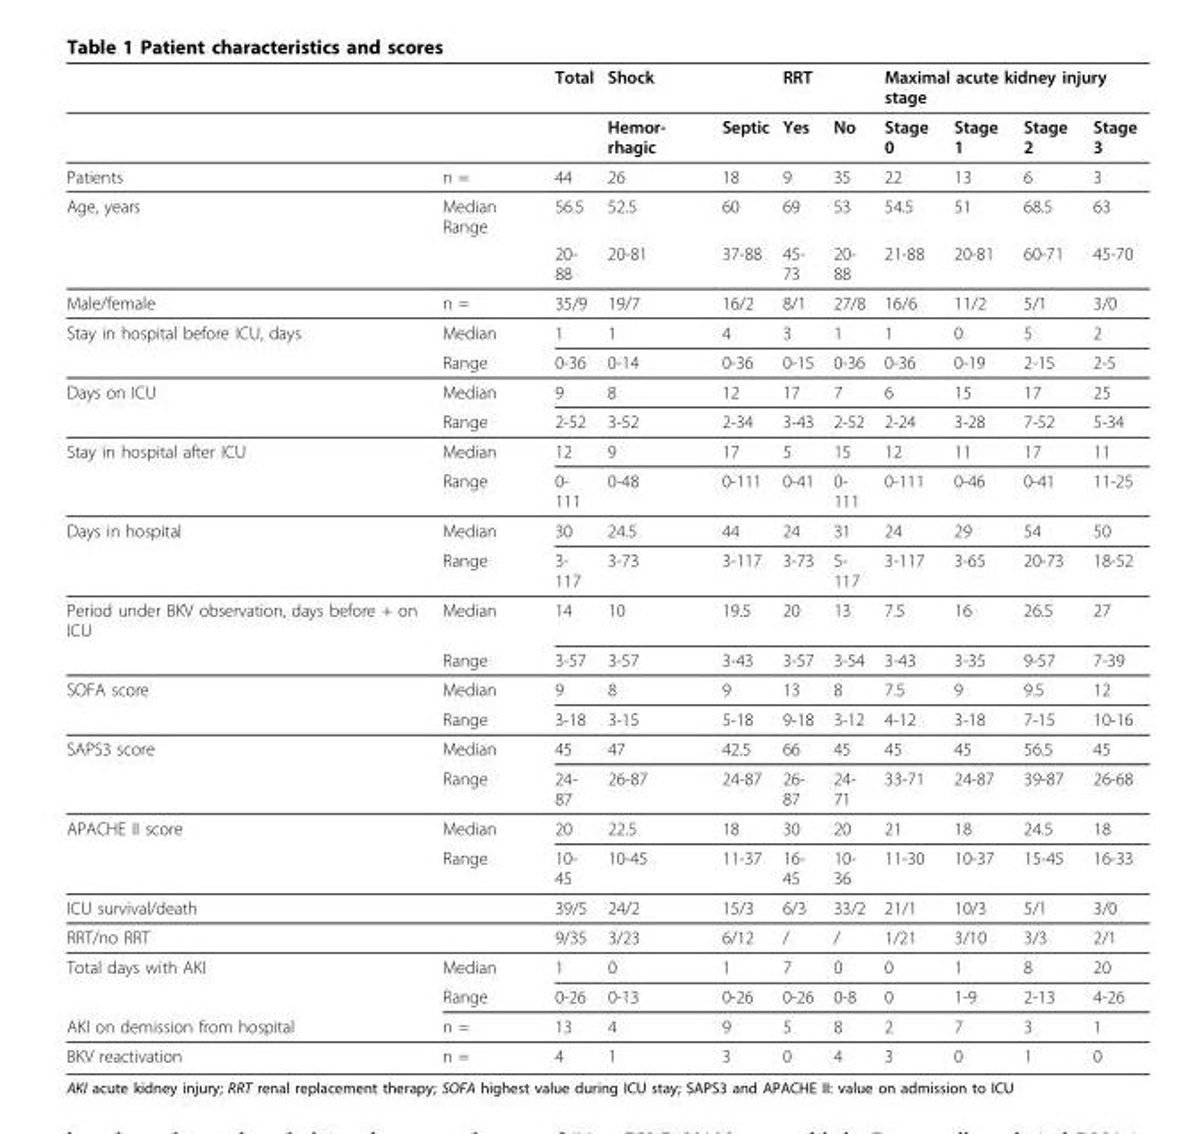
<table><thead><tr><td rowspan="2"></td><td rowspan="2"></td><td rowspan="2">Total</td><td colspan="2">Shock</td><td colspan="2">RRT</td><td colspan="4">Maximal acute kidney injury stage</td></tr><tr><td>Hemor- rhagic</td><td>Septic</td><td>Yes</td><td>No</td><td>Stage 0</td><td>Stage 1</td><td>Stage 2</td><td>Stage 3</td></tr></thead><tbody><tr><td>Patients</td><td>n =</td><td>44</td><td>26</td><td>18</td><td>9</td><td>35</td><td>22</td><td>13</td><td>6</td><td>3</td></tr><tr><td rowspan="2">Age, years</td><td>Median Range</td><td>56.5</td><td>52.5</td><td>60</td><td>69</td><td>53</td><td>54.5</td><td>51</td><td>68.5</td><td>63</td></tr><tr><td></td><td>20- 88</td><td>20-81</td><td>37-88</td><td>45- 73</td><td>20- 88</td><td>21-88</td><td>20-81</td><td>60-71</td><td>45-70</td></tr><tr><td>Male/female</td><td>n =</td><td>35/9</td><td>19/7</td><td>16/2</td><td>8/1</td><td>27/8</td><td>16/6</td><td>11/2</td><td>5/1</td><td>3/0</td></tr><tr><td rowspan="2">Stay in hospital before ICU, days</td><td>Median</td><td>1</td><td>1</td><td>4</td><td>3</td><td>1</td><td>1</td><td>0</td><td>5</td><td>2</td></tr><tr><td>Range</td><td>0-36</td><td>0-14</td><td>0-36</td><td>0-15</td><td>0-36</td><td>0-36</td><td>0-19</td><td>2-15</td><td>2-5</td></tr><tr><td rowspan="2">Days on ICU</td><td>Median</td><td>9</td><td>8</td><td>12</td><td>17</td><td>7</td><td>6</td><td>15</td><td>17</td><td>25</td></tr><tr><td>Range</td><td>2-52</td><td>3-52</td><td>2-34</td><td>3-43</td><td>2-52</td><td>2-24</td><td>3-28</td><td>7-52</td><td>5-34</td></tr><tr><td rowspan="2">Stay in hospital after ICU</td><td>Median</td><td>12</td><td>9</td><td>17</td><td>5</td><td>15</td><td>12</td><td>11</td><td>17</td><td>11</td></tr><tr><td>Range</td><td>0- 111</td><td>0-48</td><td>0-111</td><td>0-41</td><td>0- 111</td><td>0-111</td><td>0-46</td><td>0-41</td><td>11-25</td></tr><tr><td rowspan="2">Days in hospital</td><td>Median</td><td>30</td><td>24.5</td><td>44</td><td>24</td><td>31</td><td>24</td><td>29</td><td>54</td><td>50</td></tr><tr><td>Range</td><td>3- 117</td><td>3-73</td><td>3-117</td><td>3-73</td><td>5- 117</td><td>3-117</td><td>3-65</td><td>20-73</td><td>18-52</td></tr><tr><td rowspan="2">Period under BKV observation, days before + on ICU</td><td>Median</td><td>14</td><td>10</td><td>19.5</td><td>20</td><td>13</td><td>7.5</td><td>16</td><td>26.5</td><td>27</td></tr><tr><td>Range</td><td>3-57</td><td>3-57</td><td>3-43</td><td>3-57</td><td>3-54</td><td>3-43</td><td>3-35</td><td>9-57</td><td>7-39</td></tr><tr><td rowspan="2">SOFA score</td><td>Median</td><td>9</td><td>8</td><td>9</td><td>13</td><td>8</td><td>7.5</td><td>9</td><td>9.5</td><td>12</td></tr><tr><td>Range</td><td>3-18</td><td>3-15</td><td>5-18</td><td>9-18</td><td>3-12</td><td>4-12</td><td>3-18</td><td>7-15</td><td>10-16</td></tr><tr><td rowspan="2">SAPS3 score</td><td>Median</td><td>45</td><td>47</td><td>42.5</td><td>66</td><td>45</td><td>45</td><td>45</td><td>56.5</td><td>45</td></tr><tr><td>Range</td><td>24- 87</td><td>26-87</td><td>24-87</td><td>26- 87</td><td>24- 71</td><td>33-71</td><td>24-87</td><td>39-87</td><td>26-68</td></tr><tr><td rowspan="2">APACHE II score</td><td>Median</td><td>20</td><td>22.5</td><td>18</td><td>30</td><td>20</td><td>21</td><td>18</td><td>24.5</td><td>18</td></tr><tr><td>Range</td><td>10- 45</td><td>10-45</td><td>11-37</td><td>16- 45</td><td>10- 36</td><td>11-30</td><td>10-37</td><td>15-45</td><td>16-33</td></tr><tr><td>ICU survival/death</td><td></td><td>39/5</td><td>24/2</td><td>15/3</td><td>6/3</td><td>33/2</td><td>21/1</td><td>10/3</td><td>5/1</td><td>3/0</td></tr><tr><td>RRT/no RRT</td><td></td><td>9/35</td><td>3/23</td><td>6/12</td><td>/</td><td>/</td><td>1/21</td><td>3/10</td><td>3/3</td><td>2/1</td></tr><tr><td rowspan="2">Total days with AKI</td><td>Median</td><td>1</td><td>0</td><td>1</td><td>7</td><td>0</td><td>0</td><td>1</td><td>8</td><td>20</td></tr><tr><td>Range</td><td>0-26</td><td>0-13</td><td>0-26</td><td>0-26</td><td>0-8</td><td>0</td><td>1-9</td><td>2-13</td><td>4-26</td></tr><tr><td>AKI on demission from hospital</td><td>n =</td><td>13</td><td>4</td><td>9</td><td>5</td><td>8</td><td>2</td><td>7</td><td>3</td><td>1</td></tr><tr><td>BKV reactivation</td><td>n =</td><td>4</td><td>1</td><td>3</td><td>0</td><td>4</td><td>3</td><td>0</td><td>1</td><td>0</td></tr></tbody></table>